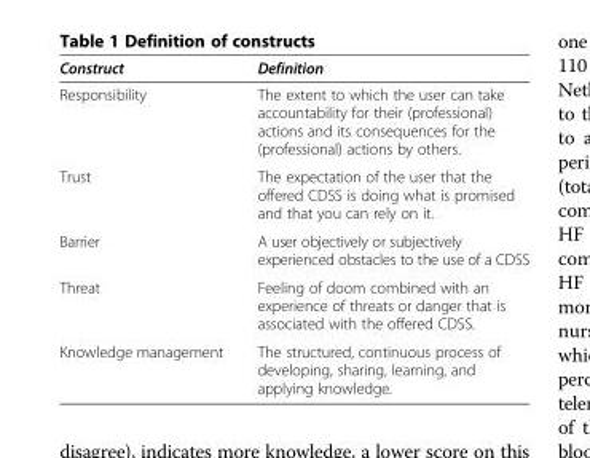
<table><thead><tr><td>Construct</td><td>Definition</td></tr></thead><tbody><tr><td>Responsibility</td><td>The extent to which the user can take accountability for their (professional) actions and its consequences for the (professional) actions by others.</td></tr><tr><td>Trust</td><td>The expectation of the user that the offered CDSS is doing what is promised and that you can rely on it.</td></tr><tr><td>Barrier</td><td>A user objectively or subjectively experienced obstacles to the use of a CDSS</td></tr><tr><td>Threat</td><td>Feeling of doom combined with an experience of threats or danger that is associated with the offered CDSS.</td></tr><tr><td>Knowledge management</td><td>The structured, continuous process of developing, sharing, learning, and applying knowledge.</td></tr></tbody></table>